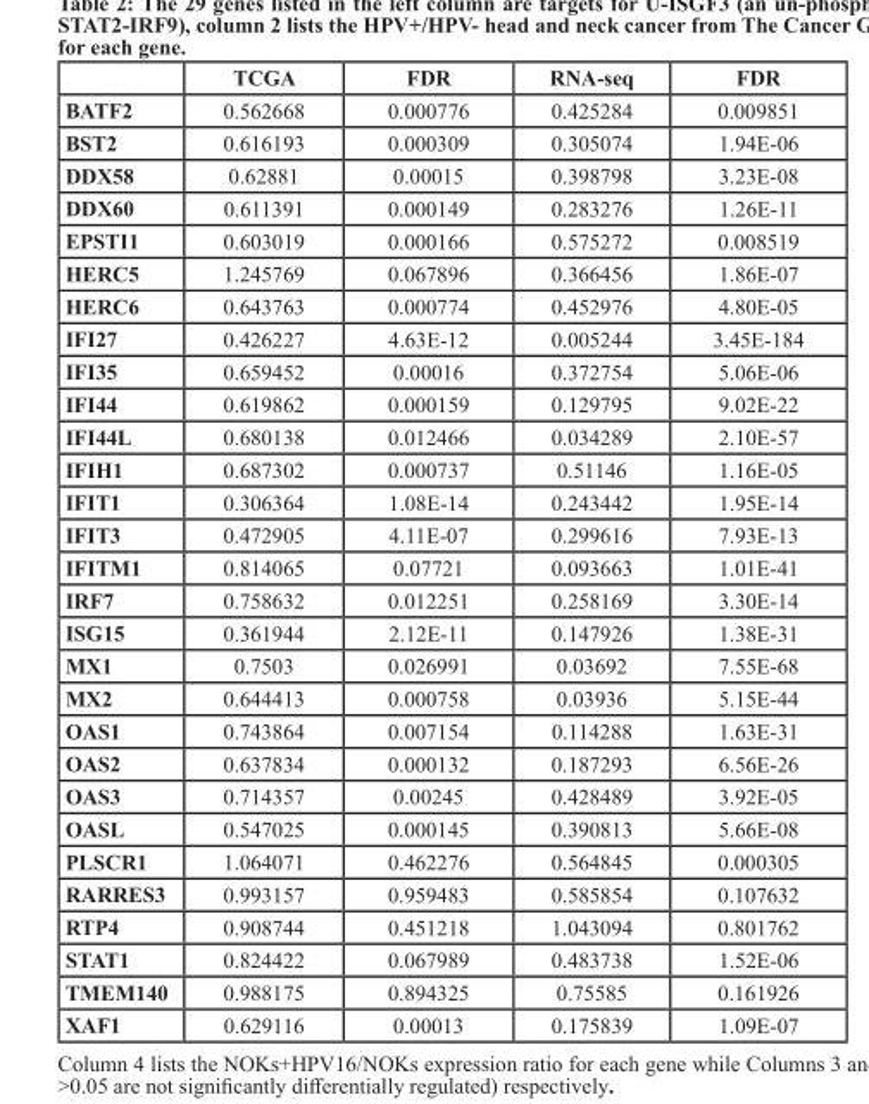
<table><thead><tr><td></td><td>TCGA</td><td>FDR</td><td>RNA-seq</td><td>FDR</td></tr></thead><tbody><tr><td>BATF2</td><td>0.562668</td><td>0.000776</td><td>0.425284</td><td>0.009851</td></tr><tr><td>BST2</td><td>0.616193</td><td>0.000309</td><td>0.305074</td><td>1.94E-06</td></tr><tr><td>DDX58</td><td>0.62881</td><td>0.00015</td><td>0.398798</td><td>3.23E-08</td></tr><tr><td>DDX60</td><td>0.611391</td><td>0.000149</td><td>0.283276</td><td>1.26E-11</td></tr><tr><td>EPSTI1</td><td>0.603019</td><td>0.000166</td><td>0.575272</td><td>0.008519</td></tr><tr><td>HERC5</td><td>1.245769</td><td>0.067896</td><td>0.366456</td><td>1.86E-07</td></tr><tr><td>HERC6</td><td>0.643763</td><td>0.000774</td><td>0.452976</td><td>4.80E-05</td></tr><tr><td>IFI27</td><td>0.426227</td><td>4.63E-12</td><td>0.005244</td><td>3.45E-184</td></tr><tr><td>IFI35</td><td>0.659452</td><td>0.00016</td><td>0.372754</td><td>5.06E-06</td></tr><tr><td>IFI44</td><td>0.619862</td><td>0.000159</td><td>0.129795</td><td>9.02E-22</td></tr><tr><td>IFI44L</td><td>0.680138</td><td>0.012466</td><td>0.034289</td><td>2.10E-57</td></tr><tr><td>IFIH1</td><td>0.687302</td><td>0.000737</td><td>0.51146</td><td>1.16E-05</td></tr><tr><td>IFIT1</td><td>0.306364</td><td>1.08E-14</td><td>0.243442</td><td>1.95E-14</td></tr><tr><td>IFIT3</td><td>0.472905</td><td>4.11E-07</td><td>0.299616</td><td>7.93E-13</td></tr><tr><td>IFITM1</td><td>0.814065</td><td>0.07721</td><td>0.093663</td><td>1.01E-41</td></tr><tr><td>IRF7</td><td>0.758632</td><td>0.012251</td><td>0.258169</td><td>3.30E-14</td></tr><tr><td>ISG15</td><td>0.361944</td><td>2.12E-11</td><td>0.147926</td><td>1.38E-31</td></tr><tr><td>MX1</td><td>0.7503</td><td>0.026991</td><td>0.03692</td><td>7.55E-68</td></tr><tr><td>MX2</td><td>0.644413</td><td>0.000758</td><td>0.03936</td><td>5.15E-44</td></tr><tr><td>OAS1</td><td>0.743864</td><td>0.007154</td><td>0.114288</td><td>1.63E-31</td></tr><tr><td>OAS2</td><td>0.637834</td><td>0.000132</td><td>0.187293</td><td>6.56E-26</td></tr><tr><td>OAS3</td><td>0.714357</td><td>0.00245</td><td>0.428489</td><td>3.92E-05</td></tr><tr><td>OASL</td><td>0.547025</td><td>0.000145</td><td>0.390813</td><td>5.66E-08</td></tr><tr><td>PLSCR1</td><td>1.064071</td><td>0.462276</td><td>0.564845</td><td>0.000305</td></tr><tr><td>RARRES3</td><td>0.993157</td><td>0.959483</td><td>0.585854</td><td>0.107632</td></tr><tr><td>RTP4</td><td>0.908744</td><td>0.451218</td><td>1.043094</td><td>0.801762</td></tr><tr><td>STAT1</td><td>0.824422</td><td>0.067989</td><td>0.483738</td><td>1.52E-06</td></tr><tr><td>TMEM140</td><td>0.988175</td><td>0.894325</td><td>0.75585</td><td>0.161926</td></tr><tr><td>XAF1</td><td>0.629116</td><td>0.00013</td><td>0.175839</td><td>1.09E-07</td></tr></tbody></table>